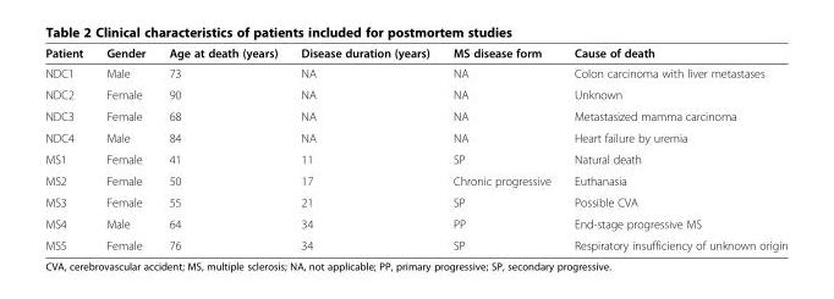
<table><thead><tr><td>Patient</td><td>Gender</td><td>Age at death (years)</td><td>Disease duration (years)</td><td>MS disease form</td><td>Cause of death</td></tr></thead><tbody><tr><td>NDC1</td><td>Male</td><td>73</td><td>NA</td><td>NA</td><td>Colon carcinoma with liver metastases</td></tr><tr><td>NDC2</td><td>Female</td><td>90</td><td>NA</td><td>NA</td><td>Unknown</td></tr><tr><td>NDC3</td><td>Female</td><td>68</td><td>NA</td><td>NA</td><td>Metastasized mamma carcinoma</td></tr><tr><td>NDC4</td><td>Male</td><td>84</td><td>NA</td><td>NA</td><td>Heart failure by uremia</td></tr><tr><td>MS1</td><td>Female</td><td>41</td><td>11</td><td>SP</td><td>Natural death</td></tr><tr><td>MS2</td><td>Female</td><td>50</td><td>17</td><td>Chronic progressive</td><td>Euthanasia</td></tr><tr><td>MS3</td><td>Female</td><td>55</td><td>21</td><td>SP</td><td>Possible CVA</td></tr><tr><td>MS4</td><td>Male</td><td>64</td><td>34</td><td>PP</td><td>End-stage progressive MS</td></tr><tr><td>MS5</td><td>Female</td><td>76</td><td>34</td><td>SP</td><td>Respiratory insufficiency of unknown origin</td></tr></tbody></table>